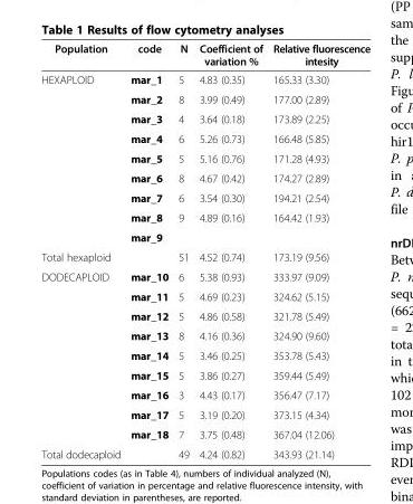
<table><thead><tr><td>Population</td><td>code</td><td>N</td><td>Coefficient of variation %</td><td>Relative fluorescence intesity</td></tr></thead><tbody><tr><td rowspan="9">HEXAPLOID</td><td>mar_1</td><td>5</td><td>4.83 (0.35)</td><td>165.33 (3.30)</td></tr><tr><td>mar_2</td><td>8</td><td>3.99 (0.49)</td><td>177.00 (2.89)</td></tr><tr><td>mar_3</td><td>4</td><td>3.64 (0.18)</td><td>173.89 (2.25)</td></tr><tr><td>mar_4</td><td>6</td><td>5.26 (0.73)</td><td>166.48 (5.85)</td></tr><tr><td>mar_5</td><td>5</td><td>5.16 (0.76)</td><td>171.28 (4.93)</td></tr><tr><td>mar_6</td><td>8</td><td>4.67 (0.42)</td><td>174.27 (2.89)</td></tr><tr><td>mar_7</td><td>6</td><td>3.54 (0.30)</td><td>194.21 (2.54)</td></tr><tr><td>mar_8</td><td>9</td><td>4.89 (0.16)</td><td>164.42 (1.93)</td></tr><tr><td>mar_9</td><td></td><td></td><td></td></tr><tr><td>Total hexaploid</td><td></td><td>51</td><td>4.52 (0.74)</td><td>173.19 (9.56)</td></tr><tr><td rowspan="9">DODECAPLOID</td><td>mar_10</td><td>6</td><td>5.38 (0.93)</td><td>333.97 (9.09)</td></tr><tr><td>mar_11</td><td>5</td><td>4.69 (0.23)</td><td>324.62 (5.15)</td></tr><tr><td>mar_12</td><td>5</td><td>4.86 (0.58)</td><td>321.78 (5.49)</td></tr><tr><td>mar_13</td><td>8</td><td>4.16 (0.36)</td><td>324.90 (9.60)</td></tr><tr><td>mar_14</td><td>5</td><td>3.46 (0.25)</td><td>353.78 (5.43)</td></tr><tr><td>mar_15</td><td>5</td><td>3.86 (0.27)</td><td>359.44 (5.49)</td></tr><tr><td>mar_16</td><td>3</td><td>4.43 (0.17)</td><td>356.47 (7.17)</td></tr><tr><td>mar_17</td><td>5</td><td>3.19 (0.20)</td><td>373.15 (4.34)</td></tr><tr><td>mar_18</td><td>7</td><td>3.75 (0.48)</td><td>367.04 (12.06)</td></tr><tr><td>Total dodecaploid</td><td></td><td>49</td><td>4.24 (0.82)</td><td>343.93 (21.14)</td></tr></tbody></table>